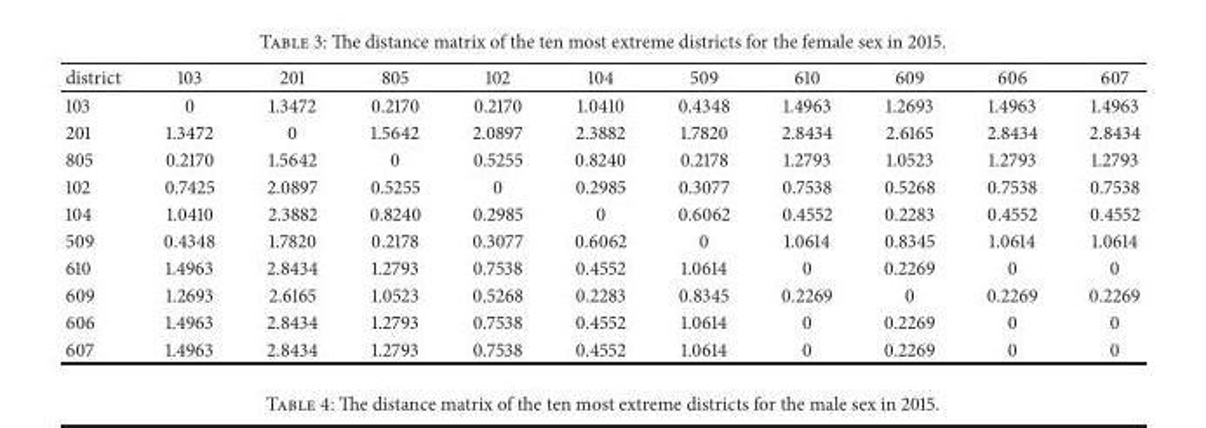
<table><thead><tr><td>district</td><td>103</td><td>201</td><td>805</td><td>102</td><td>104</td><td>509</td><td>610</td><td>609</td><td>606</td><td>607</td></tr></thead><tbody><tr><td>103</td><td>0</td><td>1.3472</td><td>0.2170</td><td>0.2170</td><td>1.0410</td><td>0.4348</td><td>1.4963</td><td>1.2693</td><td>1.4963</td><td>1.4963</td></tr><tr><td>201</td><td>1.3472</td><td>0</td><td>1.5642</td><td>2.0897</td><td>2.3882</td><td>1.7820</td><td>2.8434</td><td>2.6165</td><td>2.8434</td><td>2.8434</td></tr><tr><td>805</td><td>0.2170</td><td>1.5642</td><td>0</td><td>0.5255</td><td>0.8240</td><td>0.2178</td><td>1.2793</td><td>1.0523</td><td>1.2793</td><td>1.2793</td></tr><tr><td>102</td><td>0.7425</td><td>2.0897</td><td>0.5255</td><td>0</td><td>0.2985</td><td>0.3077</td><td>0.7538</td><td>0.5268</td><td>0.7538</td><td>0.7538</td></tr><tr><td>104</td><td>1.0410</td><td>2.3882</td><td>0.8240</td><td>0.2985</td><td>0</td><td>0.6062</td><td>0.4552</td><td>0.2283</td><td>0.4552</td><td>0.4552</td></tr><tr><td>509</td><td>0.4348</td><td>1.7820</td><td>0.2178</td><td>0.3077</td><td>0.6062</td><td>0</td><td>1.0614</td><td>0.8345</td><td>1.0614</td><td>1.0614</td></tr><tr><td>610</td><td>1.4963</td><td>2.8434</td><td>1.2793</td><td>0.7538</td><td>0.4552</td><td>1.0614</td><td>0</td><td>0.2269</td><td>0</td><td>0</td></tr><tr><td>609</td><td>1.2693</td><td>2.6165</td><td>1.0523</td><td>0.5268</td><td>0.2283</td><td>0.8345</td><td>0.2269</td><td>0</td><td>0.2269</td><td>0.2269</td></tr><tr><td>606</td><td>1.4963</td><td>2.8434</td><td>1.2793</td><td>0.7538</td><td>0.4552</td><td>1.0614</td><td>0</td><td>0.2269</td><td>0</td><td>0</td></tr><tr><td>607</td><td>1.4963</td><td>2.8434</td><td>1.2793</td><td>0.7538</td><td>0.4552</td><td>1.0614</td><td>0</td><td>0.2269</td><td>0</td><td>0</td></tr></tbody></table>